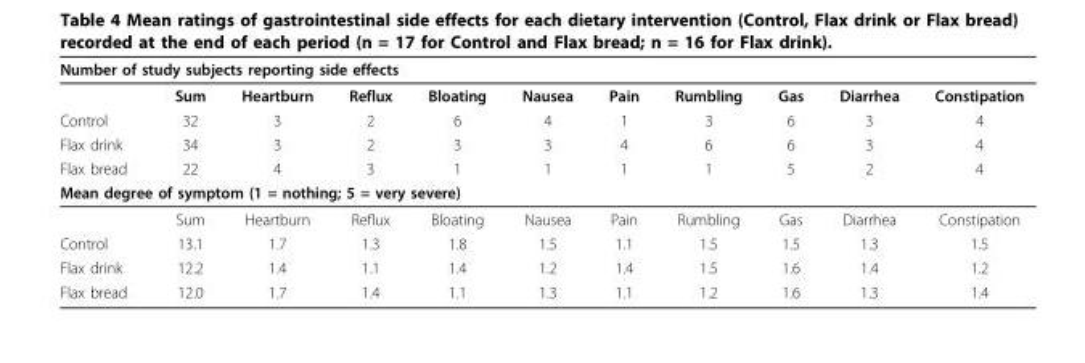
<table><thead><tr><td colspan="11">Number of study subjects reporting side effects</td></tr><tr><td></td><td>Sum</td><td>Heartburn</td><td>Reflux</td><td>Bloating</td><td>Nausea</td><td>Pain</td><td>Rumbling</td><td>Gas</td><td>Diarrhea</td><td>Constipation</td></tr></thead><tbody><tr><td>Control</td><td>32</td><td>3</td><td>2</td><td>6</td><td>4</td><td>1</td><td>3</td><td>6</td><td>3</td><td>4</td></tr><tr><td>Flax drink</td><td>34</td><td>3</td><td>2</td><td>3</td><td>3</td><td>4</td><td>6</td><td>6</td><td>3</td><td>4</td></tr><tr><td>Flax bread</td><td>22</td><td>4</td><td>3</td><td>1</td><td>1</td><td>1</td><td>1</td><td>5</td><td>2</td><td>4</td></tr><tr><td colspan="11">Mean degree of symptom (1 = nothing; 5 = very severe)</td></tr><tr><td></td><td>Sum</td><td>Heartburn</td><td>Reflux</td><td>Bloating</td><td>Nausea</td><td>Pain</td><td>Rumbling</td><td>Gas</td><td>Diarrhea</td><td>Constipation</td></tr><tr><td>Control</td><td>13.1</td><td>1.7</td><td>1.3</td><td>1.8</td><td>1.5</td><td>1.1</td><td>1.5</td><td>1.5</td><td>1.3</td><td>1.5</td></tr><tr><td>Flax drink</td><td>12.2</td><td>1.4</td><td>1.1</td><td>1.4</td><td>1.2</td><td>1.4</td><td>1.5</td><td>1.6</td><td>1.4</td><td>1.2</td></tr><tr><td>Flax bread</td><td>12.0</td><td>1.7</td><td>1.4</td><td>1.1</td><td>1.3</td><td>1.1</td><td>1.2</td><td>1.6</td><td>1.3</td><td>1.4</td></tr></tbody></table>